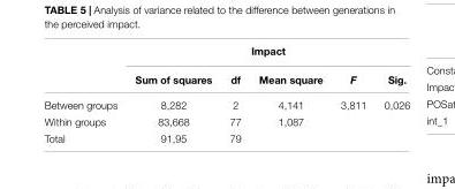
<table><thead><tr><td rowspan="2"></td><td colspan="5">Impact</td></tr><tr><td>Sum of squares</td><td>df</td><td>Mean square</td><td>F</td><td>Sig.</td></tr></thead><tbody><tr><td>Between groups</td><td>8,282</td><td>2</td><td>4,141</td><td>3,811</td><td>0,026</td></tr><tr><td>Within groups</td><td>83,668</td><td>77</td><td>1,087</td><td></td><td></td></tr><tr><td>Total</td><td>91,95</td><td>79</td><td></td><td></td><td></td></tr></tbody></table>